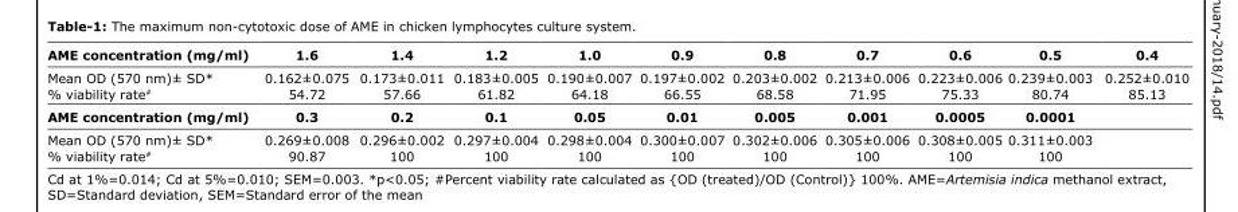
<table><tbody><tr><td>AME concentration (mg/ml)</td><td>1.6</td><td>1.4</td><td>1.2</td><td>1.0</td><td>0.9</td><td>0.8</td><td>0.7</td><td>0.6</td><td>0.5</td><td>0.4</td></tr><tr><td>Mean OD (570 nm)± SD*</td><td>0.162±0.075</td><td>0.173±0.011</td><td>0.183±0.005</td><td>0.190±0.007</td><td>0.197±0.002</td><td>0.203±0.002</td><td>0.213±0.006</td><td>0.223±0.006</td><td>0.239±0.003</td><td>0.252±0.010</td></tr><tr><td>% viability rate<sup>#</sup></td><td>54.72</td><td>57.66</td><td>61.82</td><td>64.18</td><td>66.55</td><td>68.58</td><td>71.95</td><td>75.33</td><td>80.74</td><td>85.13</td></tr><tr><td>AME concentration (mg/ml)</td><td>0.3</td><td>0.2</td><td>0.1</td><td>0.05</td><td>0.01</td><td>0.005</td><td>0.001</td><td>0.0005</td><td>0.0001</td><td></td></tr><tr><td>Mean OD (570 nm)± SD*</td><td>0.269±0.008</td><td>0.296±0.002</td><td>0.297±0.004</td><td>0.298±0.004</td><td>0.300±0.007</td><td>0.302±0.006</td><td>0.305±0.006</td><td>0.308±0.005</td><td>0.311±0.003</td><td></td></tr><tr><td>% viability rate<sup>#</sup></td><td>90.87</td><td>100</td><td>100</td><td>100</td><td>100</td><td>100</td><td>100</td><td>100</td><td>100</td><td></td></tr></tbody></table>